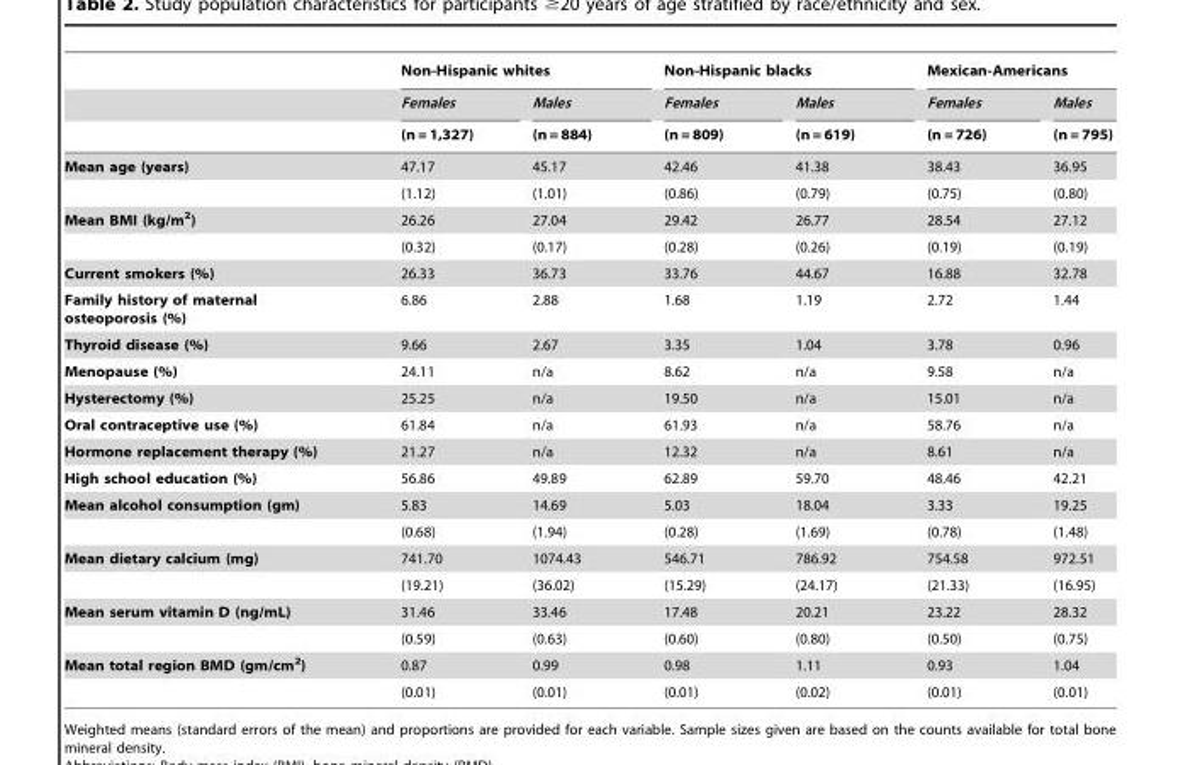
<table><thead><tr><td rowspan="3"></td><td colspan="2">Non-Hispanic whites</td><td colspan="2">Non-Hispanic blacks</td><td colspan="2">Mexican-Americans</td></tr><tr><td rowspan="2">Females (n = 1,327)</td><td rowspan="2">Males (n = 884)</td><td rowspan="2">Females (n = 809)</td><td rowspan="2">Males (n = 619)</td><td rowspan="2">Females (n = 726)</td><td rowspan="2">Males (n = 795)</td></tr><tr></tr></thead><tbody><tr><td rowspan="2">Mean age (years)</td><td>47.17</td><td>45.17</td><td>42.46</td><td>41.38</td><td>38.43</td><td>36.95</td></tr><tr><td>(1.12)</td><td>(1.01)</td><td>(0.86)</td><td>(0.79)</td><td>(0.75)</td><td>(0.80)</td></tr><tr><td rowspan="2">Mean BMI (kg/m<sup>2</sup>)</td><td>26.26</td><td>27.04</td><td>29.42</td><td>26.77</td><td>28.54</td><td>27.12</td></tr><tr><td>(0.32)</td><td>(0.17)</td><td>(0.28)</td><td>(0.26)</td><td>(0.19)</td><td>(0.19)</td></tr><tr><td>Current smokers (%)</td><td>26.33</td><td>36.73</td><td>33.76</td><td>44.67</td><td>16.88</td><td>32.78</td></tr><tr><td>Family history of maternal osteoporosis (%)</td><td>6.86</td><td>2.88</td><td>1.68</td><td>1.19</td><td>2.72</td><td>1.44</td></tr><tr><td>Thyroid disease (%)</td><td>9.66</td><td>2.67</td><td>3.35</td><td>1.04</td><td>3.78</td><td>0.96</td></tr><tr><td>Menopause (%)</td><td>24.11</td><td>n/a</td><td>8.62</td><td>n/a</td><td>9.58</td><td>n/a</td></tr><tr><td>Hysterectomy (%)</td><td>25.25</td><td>n/a</td><td>19.50</td><td>n/a</td><td>15.01</td><td>n/a</td></tr><tr><td>Oral contraceptive use (%)</td><td>61.84</td><td>n/a</td><td>61.93</td><td>n/a</td><td>58.76</td><td>n/a</td></tr><tr><td>Hormone replacement therapy (%)</td><td>21.27</td><td>n/a</td><td>12.32</td><td>n/a</td><td>8.61</td><td>n/a</td></tr><tr><td>High school education (%)</td><td>56.86</td><td>49.89</td><td>62.89</td><td>59.70</td><td>48.46</td><td>42.21</td></tr><tr><td rowspan="2">Mean alcohol consumption (gm)</td><td>5.83</td><td>14.69</td><td>5.03</td><td>18.04</td><td>3.33</td><td>19.25</td></tr><tr><td>(0.68)</td><td>(1.94)</td><td>(0.28)</td><td>(1.69)</td><td>(0.78)</td><td>(1.48)</td></tr><tr><td rowspan="2">Mean dietary calcium (mg)</td><td>741.70</td><td>1074.43</td><td>546.71</td><td>786.92</td><td>754.58</td><td>972.51</td></tr><tr><td>(19.21)</td><td>(36.02)</td><td>(15.29)</td><td>(24.17)</td><td>(21.33)</td><td>(16.95)</td></tr><tr><td rowspan="2">Mean serum vitamin D (ng/mL)</td><td>31.46</td><td>33.46</td><td>17.48</td><td>20.21</td><td>23.22</td><td>28.32</td></tr><tr><td>(0.59)</td><td>(0.63)</td><td>(0.60)</td><td>(0.80)</td><td>(0.50)</td><td>(0.75)</td></tr><tr><td rowspan="2">Mean total region BMD (gm/cm<sup>2</sup>)</td><td>0.87</td><td>0.99</td><td>0.98</td><td>1.11</td><td>0.93</td><td>1.04</td></tr><tr><td>(0.01)</td><td>(0.01)</td><td>(0.01)</td><td>(0.02)</td><td>(0.01)</td><td>(0.01)</td></tr></tbody></table>